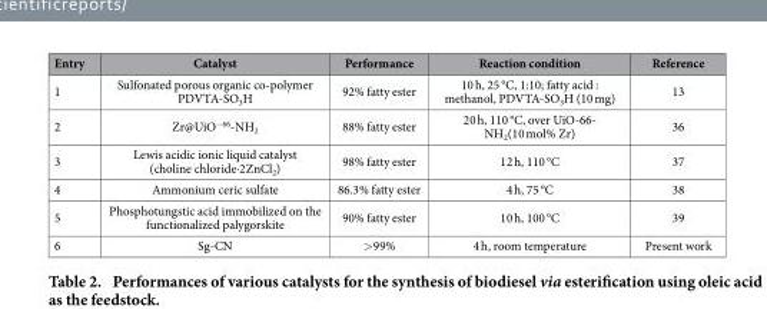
<table><thead><tr><td>Entry</td><td>Catalyst</td><td>Performance</td><td>Reaction condition</td><td>Reference</td></tr></thead><tbody><tr><td>1</td><td>Sulfonated porous organic co-polymer PDVTA-SO<sub>3</sub>H</td><td>92% fatty ester</td><td>10 h, 25 °C, 1:10; fatty acid : methanol, PDVTA-SO<sub>3</sub>H (10 mg)</td><td>13</td></tr><tr><td>2</td><td>Zr@UiO<sup>−66</sup>-NH<sub>2</sub></td><td>88% fatty ester</td><td>20 h, 110 °C, over UiO-66- NH<sub>2</sub>(10 mol% Zr)</td><td>36</td></tr><tr><td>3</td><td>Lewis acidic ionic liquid catalyst (choline chloride·2ZnCl<sub>2</sub>)</td><td>98% fatty ester</td><td>12 h, 110 °C</td><td>37</td></tr><tr><td>4</td><td>Ammonium ceric sulfate</td><td>86.3% fatty ester</td><td>4 h, 75 °C</td><td>38</td></tr><tr><td>5</td><td>Phosphotungstic acid immobilized on the functionalized palygorskite</td><td>90% fatty ester</td><td>10 h, 100 °C</td><td>39</td></tr><tr><td>6</td><td>Sg-CN</td><td>&gt; 99%</td><td>4 h, room temperature</td><td>Present work</td></tr></tbody></table>